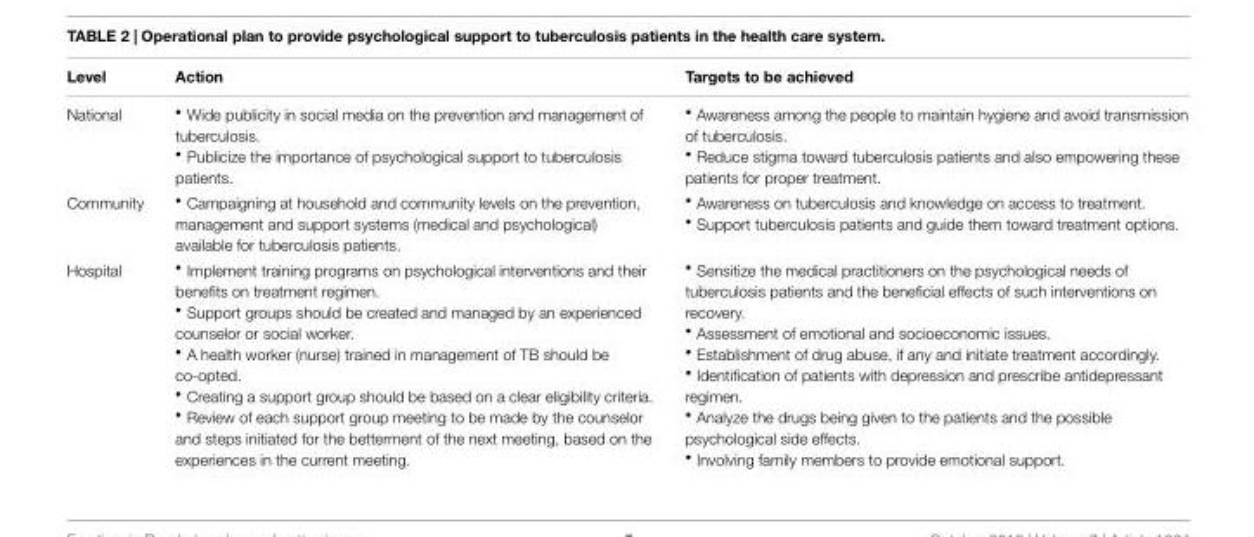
<table><thead><tr><td>Level</td><td>Action</td><td>Targets to be achieved</td></tr></thead><tbody><tr><td>National</td><td><sup>•</sup> Wide publicity in social media on the prevention and management of tuberculosis. <sup>•</sup> Publicize the importance of psychological support to tuberculosis patients.</td><td><sup>•</sup> Awareness among the people to maintain hygiene and avoid transmission of tuberculosis. <sup>•</sup> Reduce stigma toward tuberculosis patients and also empowering these patients for proper treatment.</td></tr><tr><td>Community</td><td><sup>•</sup> Campaigning at household and community levels on the prevention, management and support systems (medical and psychological) available for tuberculosis patients.</td><td><sup>•</sup> Awareness on tuberculosis and knowledge on access to treatment. <sup>•</sup> Support tuberculosis patients and guide them toward treatment options.</td></tr><tr><td>Hospital</td><td><sup>•</sup> Implement training programs on psychological interventions and their benefits on treatment regimen. <sup>•</sup> Support groups should be created and managed by an experienced counselor or social worker. <sup>•</sup> A health worker (nurse) trained in management of TB should be co-opted. <sup>•</sup> Creating a support group should be based on a clear eligibility criteria. <sup>•</sup> Review of each support group meeting to be made by the counselor and steps initiated for the betterment of the next meeting, based on the experiences in the current meeting.</td><td><sup>•</sup> Sensitize the medical practitioners on the psychological needs of tuberculosis patients and the beneficial effects of such interventions on recovery. <sup>•</sup> Assessment of emotional and socioeconomic issues. <sup>•</sup> Establishment of drug abuse, if any and initiate treatment accordingly. <sup>•</sup> Identification of patients with depression and prescribe antidepressant regimen. <sup>•</sup> Analyze the drugs being given to the patients and the possible psychological side effects. <sup>•</sup> Involving family members to provide emotional support.</td></tr></tbody></table>